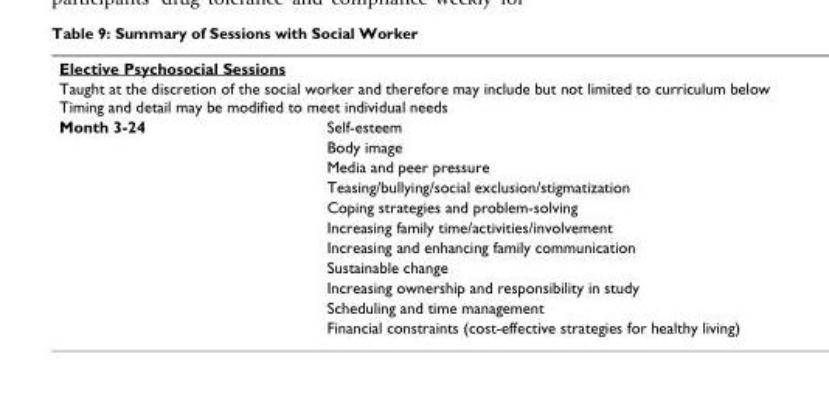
<table><tbody><tr><td colspan="2">Elective Psychosocial Sessions</td></tr><tr><td colspan="2">Taught at the discretion of the social worker and therefore may include but not limited to curriculum below Timing and detail may be modified to meet individual needs</td></tr><tr><td rowspan="11">Month 3-24</td><td>Self-esteem</td></tr><tr><td>Body image</td></tr><tr><td>Media and peer pressure</td></tr><tr><td>Teasing/bullying/social exclusion/stigmatization</td></tr><tr><td>Coping strategies and problem-solving</td></tr><tr><td>Increasing family time/activities/involvement</td></tr><tr><td>Increasing and enhancing family communication</td></tr><tr><td>Sustainable change</td></tr><tr><td>Increasing ownership and responsibility in study</td></tr><tr><td>Scheduling and time management</td></tr><tr><td>Financial constraints (cost-effective strategies for healthy living)</td></tr></tbody></table>